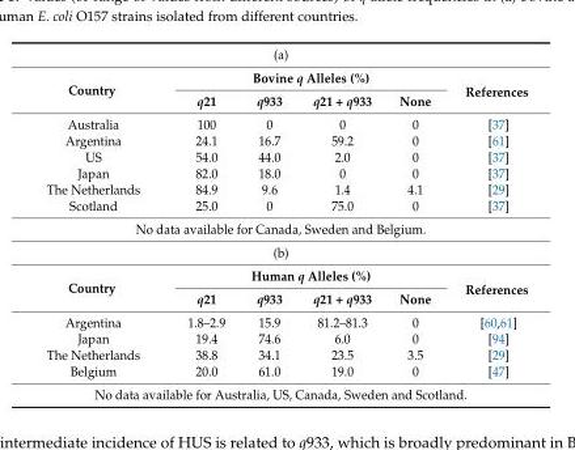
<table><tbody><tr><td colspan="6">(a)</td></tr><tr><td rowspan="2">Country</td><td colspan="4">Bovine q Alleles (%)</td><td rowspan="2">References</td></tr><tr><td>q21</td><td>q933</td><td>q21 + q933</td><td>None</td></tr><tr><td>Australia</td><td>100</td><td>0</td><td>0</td><td>0</td><td>[37]</td></tr><tr><td>Argentina</td><td>24.1</td><td>16.7</td><td>59.2</td><td>0</td><td>[61]</td></tr><tr><td>US</td><td>54.0</td><td>44.0</td><td>2.0</td><td>0</td><td>[37]</td></tr><tr><td>Japan</td><td>82.0</td><td>18.0</td><td>0</td><td>0</td><td>[37]</td></tr><tr><td>The Netherlands</td><td>84.9</td><td>9.6</td><td>1.4</td><td>4.1</td><td>[29]</td></tr><tr><td>Scotland</td><td>25.0</td><td>0</td><td>75.0</td><td>0</td><td>[37]</td></tr><tr><td colspan="6">No data available for Canada, Sweden and Belgium.</td></tr><tr><td colspan="6">(b)</td></tr><tr><td rowspan="2">Country</td><td colspan="4">Human q Alleles (%)</td><td rowspan="2">References</td></tr><tr><td>q21</td><td>q933</td><td>q21 + q933</td><td>None</td></tr><tr><td>Argentina</td><td>1.8–2.9</td><td>15.9</td><td>81.2–81.3</td><td>0</td><td>[60,61]</td></tr><tr><td>Japan</td><td>19.4</td><td>74.6</td><td>6.0</td><td>0</td><td>[94]</td></tr><tr><td>The Netherlands</td><td>38.8</td><td>34.1</td><td>23.5</td><td>3.5</td><td>[29]</td></tr><tr><td>Belgium</td><td>20.0</td><td>61.0</td><td>19.0</td><td>0</td><td>[47]</td></tr><tr><td colspan="6">No data available for Australia, US, Canada, Sweden and Scotland.</td></tr></tbody></table>